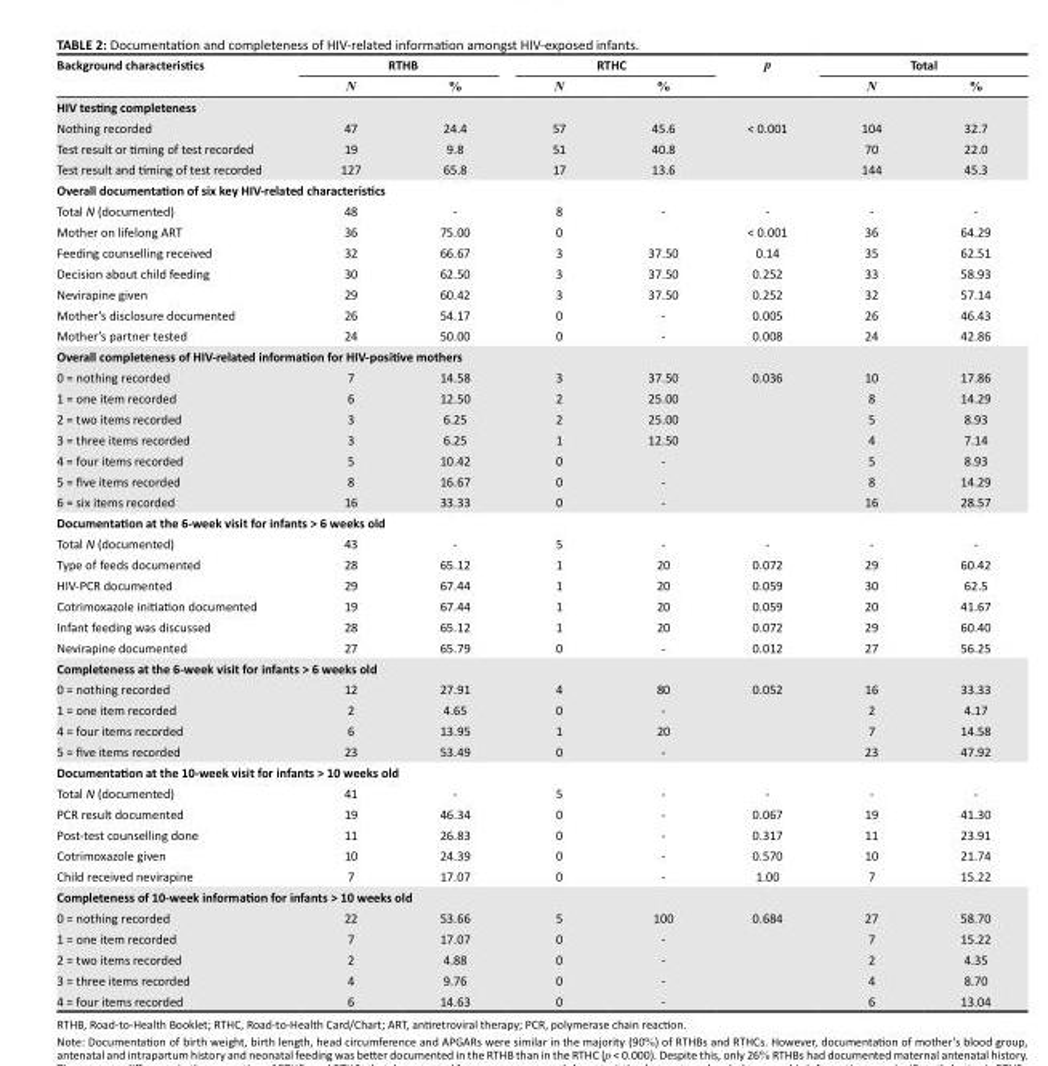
<table><thead><tr><td rowspan="2">Background characteristics</td><td colspan="2">RTHB</td><td colspan="2">RTHC</td><td rowspan="2">p</td><td colspan="2">Total</td></tr><tr><td>N</td><td>%</td><td>N</td><td>%</td><td>N</td><td>%</td></tr></thead><tbody><tr><td colspan="8">HIV testing completeness</td></tr><tr><td>Nothing recorded</td><td>47</td><td>24.4</td><td>57</td><td>45.6</td><td rowspan="3">&lt; 0.001</td><td>104</td><td>32.7</td></tr><tr><td>Test result or timing of test recorded</td><td>19</td><td>9.8</td><td>51</td><td>40.8</td><td>70</td><td>22.0</td></tr><tr><td>Test result and timing of test recorded</td><td>127</td><td>65.8</td><td>17</td><td>13.6</td><td>144</td><td>45.3</td></tr><tr><td colspan="8">Overall documentation of six key HIV-related characteristics</td></tr><tr><td>Total N (documented)</td><td>48</td><td>-</td><td>8</td><td>-</td><td>-</td><td>-</td><td>-</td></tr><tr><td>Mother on lifelong ART</td><td>36</td><td>75.00</td><td>0</td><td></td><td>&lt; 0.001</td><td>36</td><td>64.29</td></tr><tr><td>Feeding counselling received</td><td>32</td><td>66.67</td><td>3</td><td>37.50</td><td>0.14</td><td>35</td><td>62.51</td></tr><tr><td>Decision about child feeding</td><td>30</td><td>62.50</td><td>3</td><td>37.50</td><td>0.252</td><td>33</td><td>58.93</td></tr><tr><td>Nevirapine given</td><td>29</td><td>60.42</td><td>3</td><td>37.50</td><td>0.252</td><td>32</td><td>57.14</td></tr><tr><td>Mother’s disclosure documented</td><td>26</td><td>54.17</td><td>0</td><td>-</td><td>0.005</td><td>26</td><td>46.43</td></tr><tr><td>Mother’s partner tested</td><td>24</td><td>50.00</td><td>0</td><td>-</td><td>0.008</td><td>24</td><td>42.86</td></tr><tr><td colspan="8">Overall completeness of HIV-related information for HIV-positive mothers</td></tr><tr><td>0 = nothing recorded</td><td>7</td><td>14.58</td><td>3</td><td>37.50</td><td rowspan="7">0.036</td><td>10</td><td>17.86</td></tr><tr><td>1 = one item recorded</td><td>6</td><td>12.50</td><td>2</td><td>25.00</td><td>8</td><td>14.29</td></tr><tr><td>2 = two items recorded</td><td>3</td><td>6.25</td><td>2</td><td>25.00</td><td>5</td><td>8.93</td></tr><tr><td>3 = three items recorded</td><td>3</td><td>6.25</td><td>1</td><td>12.50</td><td>4</td><td>7.14</td></tr><tr><td>4 = four items recorded</td><td>5</td><td>10.42</td><td>0</td><td>-</td><td>5</td><td>8.93</td></tr><tr><td>5 = five items recorded</td><td>8</td><td>16.67</td><td>0</td><td>-</td><td>8</td><td>14.29</td></tr><tr><td>6 = six items recorded</td><td>16</td><td>33.33</td><td>0</td><td>-</td><td>16</td><td>28.57</td></tr><tr><td colspan="8">Documentation at the 6-week visit for infants &gt; 6 weeks old</td></tr><tr><td>Total N (documented)</td><td>43</td><td>-</td><td>5</td><td>-</td><td>-</td><td>-</td><td>-</td></tr><tr><td>Type of feeds documented</td><td>28</td><td>65.12</td><td>1</td><td>20</td><td>0.072</td><td>29</td><td>60.42</td></tr><tr><td>HIV-PCR documented</td><td>29</td><td>67.44</td><td>1</td><td>20</td><td>0.059</td><td>30</td><td>62.5</td></tr><tr><td>Cotrimoxazole initiation documented</td><td>19</td><td>67.44</td><td>1</td><td>20</td><td>0.059</td><td>20</td><td>41.67</td></tr><tr><td>Infant feeding was discussed</td><td>28</td><td>65.12</td><td>1</td><td>20</td><td>0.072</td><td>29</td><td>60.40</td></tr><tr><td>Nevirapine documented</td><td>27</td><td>65.79</td><td>0</td><td>-</td><td>0.012</td><td>27</td><td>56.25</td></tr><tr><td colspan="8">Completeness at the 6-week visit for infants &gt; 6 weeks old</td></tr><tr><td>0 = nothing recorded</td><td>12</td><td>27.91</td><td>4</td><td>80</td><td rowspan="4">0.052</td><td>16</td><td>33.33</td></tr><tr><td>1 = one item recorded</td><td>2</td><td>4.65</td><td>0</td><td>-</td><td>2</td><td>4.17</td></tr><tr><td>4 = four items recorded</td><td>6</td><td>13.95</td><td>1</td><td>20</td><td>7</td><td>14.58</td></tr><tr><td>5 = five items recorded</td><td>23</td><td>53.49</td><td>0</td><td>-</td><td>23</td><td>47.92</td></tr><tr><td colspan="8">Documentation at the 10-week visit for infants &gt; 10 weeks old</td></tr><tr><td>Total N (documented)</td><td>41</td><td>-</td><td>5</td><td>-</td><td>-</td><td>-</td><td>-</td></tr><tr><td>PCR result documented</td><td>19</td><td>46.34</td><td>0</td><td>-</td><td>0.067</td><td>19</td><td>41.30</td></tr><tr><td>Post-test counselling done</td><td>11</td><td>26.83</td><td>0</td><td>-</td><td>0.317</td><td>11</td><td>23.91</td></tr><tr><td>Cotrimoxazole given</td><td>10</td><td>24.39</td><td>0</td><td>-</td><td>0.570</td><td>10</td><td>21.74</td></tr><tr><td>Child received nevirapine</td><td>7</td><td>17.07</td><td>0</td><td>-</td><td>1.00</td><td>7</td><td>15.22</td></tr><tr><td colspan="8">Completeness of 10-week information for infants &gt; 10 weeks old</td></tr><tr><td>0 = nothing recorded</td><td>22</td><td>53.66</td><td>5</td><td>100</td><td rowspan="5">0.684</td><td>27</td><td>58.70</td></tr><tr><td>1 = one item recorded</td><td>7</td><td>17.07</td><td>0</td><td>-</td><td>7</td><td>15.22</td></tr><tr><td>2 = two items recorded</td><td>2</td><td>4.88</td><td>0</td><td>-</td><td>2</td><td>4.35</td></tr><tr><td>3 = three items recorded</td><td>4</td><td>9.76</td><td>0</td><td>-</td><td>4</td><td>8.70</td></tr><tr><td>4 = four items recorded</td><td>6</td><td>14.63</td><td>0</td><td>-</td><td>6</td><td>13.04</td></tr></tbody></table>